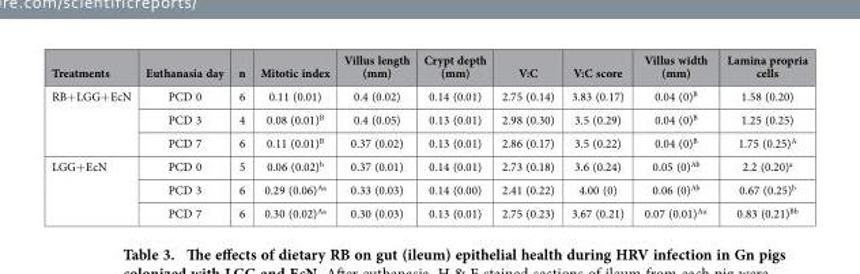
<table><thead><tr><td>Treatments</td><td>Euthanasia day</td><td>n</td><td>Mitotic index</td><td>Villus length (mm)</td><td>Crypt depth (mm)</td><td>V:C</td><td>V:C score</td><td>Villus width (mm)</td><td>Lamina propria cells</td></tr></thead><tbody><tr><td rowspan="3">RB+ LGG+ EcN</td><td>PCD 0</td><td>6</td><td>0.11 (0.01)</td><td>0.4 (0.02)</td><td>0.14 (0.01)</td><td>2.75 (0.14)</td><td>3.83 (0.17)</td><td>0.04 (0)<sup>B</sup></td><td>1.58 (0.20)</td></tr><tr><td>PCD 3</td><td>4</td><td>0.08 (0.01)<sup>B</sup></td><td>0.4 (0.05)</td><td>0.13 (0.01)</td><td>2.98 (0.30)</td><td>3.5 (0.29)</td><td>0.04 (0)<sup>B</sup></td><td>1.25 (0.25)</td></tr><tr><td>PCD 7</td><td>6</td><td>0.11 (0.01)<sup>B</sup></td><td>0.37 (0.02)</td><td>0.13 (0.01)</td><td>2.86 (0.17)</td><td>3.5 (0.22)</td><td>0.04 (0)<sup>B</sup></td><td>1.75 (0.25)<sup>A</sup></td></tr><tr><td rowspan="3">LGG+ EcN</td><td>PCD 0</td><td>5</td><td>0.06 (0.02)<sup>b</sup></td><td>0.37 (0.01)</td><td>0.14 (0.01)</td><td>2.73 (0.18)</td><td>3.6 (0.24)</td><td>0.05 (0)<sup>Ab</sup></td><td>2.2 (0.20)<sup>a</sup></td></tr><tr><td>PCD 3</td><td>6</td><td>0.29 (0.06)<sup>Aa</sup></td><td>0.33 (0.03)</td><td>0.14 (0.00)</td><td>2.41 (0.22)</td><td>4.00 (0)</td><td>0.06 (0)<sup>Ab</sup></td><td>0.67 (0.25)<sup>b</sup></td></tr><tr><td>PCD 7</td><td>6</td><td>0.30 (0.02)<sup>Aa</sup></td><td>0.30 (0.03)</td><td>0.13 (0.01)</td><td>2.75 (0.23)</td><td>3.67 (0.21)</td><td>0.07 (0.01)<sup>Aa.</sup></td><td>0.83 (0.21)<sup>Bb</sup></td></tr></tbody></table>